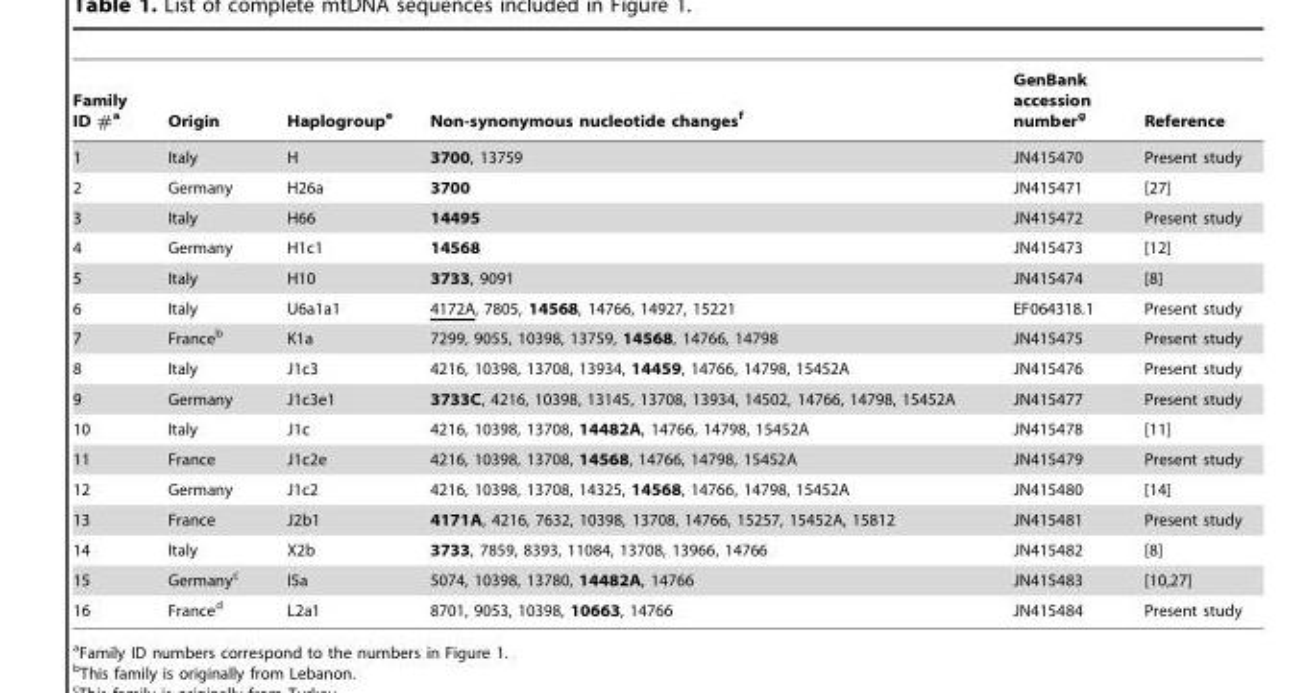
<table><thead><tr><td>Family ID #<sup>a</sup></td><td>Origin</td><td>Haplogroup<sup>e</sup></td><td>Non-synonymous nucleotide changes<sup>f</sup></td><td>GenBank accession number<sup>g</sup></td><td>Reference</td></tr></thead><tbody><tr><td>1</td><td>Italy</td><td>H</td><td>3700, 13759</td><td>JN415470</td><td>Present study</td></tr><tr><td>2</td><td>Germany</td><td>H26a</td><td>3700</td><td>JN415471</td><td>[27]</td></tr><tr><td>3</td><td>Italy</td><td>H66</td><td>14495</td><td>JN415472</td><td>Present study</td></tr><tr><td>4</td><td>Germany</td><td>H1c1</td><td>14568</td><td>JN415473</td><td>[12]</td></tr><tr><td>5</td><td>Italy</td><td>H10</td><td>3733, 9091</td><td>JN415474</td><td>[8]</td></tr><tr><td>6</td><td>Italy</td><td>U6a1a1</td><td>4172A, 7805, 14568, 14766, 14927, 15221</td><td>EF064318.1</td><td>Present study</td></tr><tr><td>7</td><td>France<sup>b</sup></td><td>K1a</td><td>7299, 9055, 10398, 13759, 14568, 14766, 14798</td><td>JN415475</td><td>Present study</td></tr><tr><td>8</td><td>Italy</td><td>J1c3</td><td>4216, 10398, 13708, 13934, 14459, 14766, 14798, 15452A</td><td>JN415476</td><td>Present study</td></tr><tr><td>9</td><td>Germany</td><td>J1c3e1</td><td>3733C, 4216, 10398, 13145, 13708, 13934, 14502, 14766, 14798, 15452A</td><td>JN415477</td><td>Present study</td></tr><tr><td>10</td><td>Italy</td><td>J1c</td><td>4216, 10398, 13708, 14482A, 14766, 14798, 15452A</td><td>JN415478</td><td>[11]</td></tr><tr><td>11</td><td>France</td><td>J1c2e</td><td>4216, 10398, 13708, 14568, 14766, 14798, 15452A</td><td>JN415479</td><td>Present study</td></tr><tr><td>12</td><td>Germany</td><td>J1c2</td><td>4216, 10398, 13708, 14325, 14568, 14766, 14798, 15452A</td><td>JN415480</td><td>[14]</td></tr><tr><td>13</td><td>France</td><td>J2b1</td><td>4171A, 4216, 7632, 10398, 13708, 14766, 15257, 15452A, 15812</td><td>JN415481</td><td>Present study</td></tr><tr><td>14</td><td>Italy</td><td>X2b</td><td>3733, 7859, 8393, 11084, 13708, 13966, 14766</td><td>JN415482</td><td>[8]</td></tr><tr><td>15</td><td>Germany<sup>c</sup></td><td>I5a</td><td>5074, 10398, 13780, 14482A, 14766</td><td>JN415483</td><td>[10,27]</td></tr><tr><td>16</td><td>France<sup>d</sup></td><td>L2a1</td><td>8701, 9053, 10398, 10663, 14766</td><td>JN415484</td><td>Present study</td></tr></tbody></table>